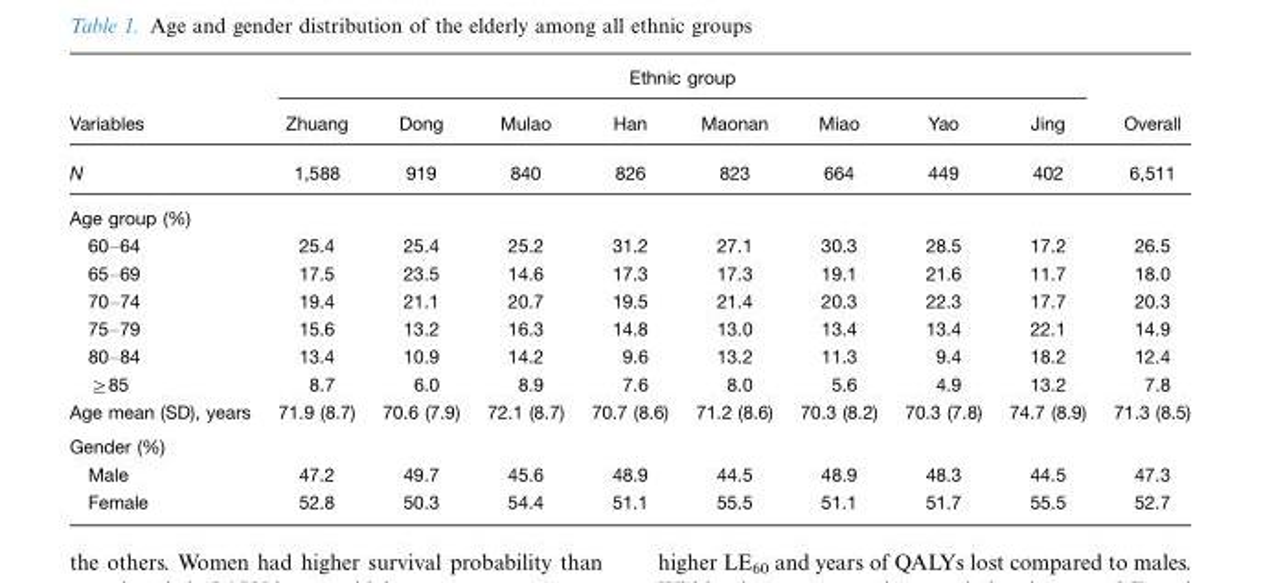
<table><thead><tr><td rowspan="3">Variables N</td><td colspan="8">Ethnic group</td><td rowspan="3">Overall 6,511</td></tr><tr><td rowspan="2">Zhuang 1,588</td><td rowspan="2">Dong 919</td><td rowspan="2">Mulao 840</td><td rowspan="2">Han 826</td><td rowspan="2">Maonan 823</td><td rowspan="2">Miao 664</td><td rowspan="2">Yao 449</td><td rowspan="2">Jing 402</td></tr><tr></tr></thead><tbody><tr><td colspan="10">Age group (%)</td></tr><tr><td>60–64</td><td>25.4</td><td>25.4</td><td>25.2</td><td>31.2</td><td>27.1</td><td>30.3</td><td>28.5</td><td>17.2</td><td>26.5</td></tr><tr><td>65–69</td><td>17.5</td><td>23.5</td><td>14.6</td><td>17.3</td><td>17.3</td><td>19.1</td><td>21.6</td><td>11.7</td><td>18.0</td></tr><tr><td>70–74</td><td>19.4</td><td>21.1</td><td>20.7</td><td>19.5</td><td>21.4</td><td>20.3</td><td>22.3</td><td>17.7</td><td>20.3</td></tr><tr><td>75–79</td><td>15.6</td><td>13.2</td><td>16.3</td><td>14.8</td><td>13.0</td><td>13.4</td><td>13.4</td><td>22.1</td><td>14.9</td></tr><tr><td>80–84</td><td>13.4</td><td>10.9</td><td>14.2</td><td>9.6</td><td>13.2</td><td>11.3</td><td>9.4</td><td>18.2</td><td>12.4</td></tr><tr><td>≥85</td><td>8.7</td><td>6.0</td><td>8.9</td><td>7.6</td><td>8.0</td><td>5.6</td><td>4.9</td><td>13.2</td><td>7.8</td></tr><tr><td>Age mean (SD), years</td><td>71.9 (8.7)</td><td>70.6 (7.9)</td><td>72.1 (8.7)</td><td>70.7 (8.6)</td><td>71.2 (8.6)</td><td>70.3 (8.2)</td><td>70.3 (7.8)</td><td>74.7 (8.9)</td><td>71.3 (8.5)</td></tr><tr><td colspan="10">Gender (%)</td></tr><tr><td>Male</td><td>47.2</td><td>49.7</td><td>45.6</td><td>48.9</td><td>44.5</td><td>48.9</td><td>48.3</td><td>44.5</td><td>47.3</td></tr><tr><td>Female</td><td>52.8</td><td>50.3</td><td>54.4</td><td>51.1</td><td>55.5</td><td>51.1</td><td>51.7</td><td>55.5</td><td>52.7</td></tr></tbody></table>